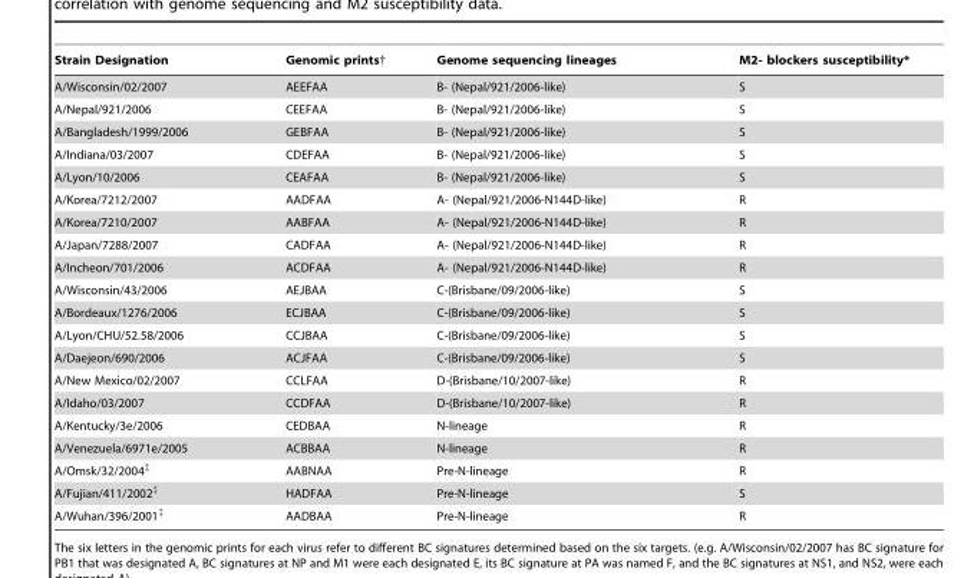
<table><thead><tr><td>Strain Designation</td><td>Genomic prints†</td><td>Genome sequencing lineages</td><td>M2- blockers susceptibility*</td></tr></thead><tbody><tr><td>A/Wisconsin/02/2007</td><td>AEEFAA</td><td>B- (Nepal/921/2006-like)</td><td>S</td></tr><tr><td>A/Nepal/921/2006</td><td>CEEFAA</td><td>B- (Nepal/921/2006-like)</td><td>S</td></tr><tr><td>A/Bangladesh/1999/2006</td><td>GEBFAA</td><td>B- (Nepal/921/2006-like)</td><td>S</td></tr><tr><td>A/Indiana/03/2007</td><td>CDEFAA</td><td>B- (Nepal/921/2006-like)</td><td>S</td></tr><tr><td>A/Lyon/10/2006</td><td>CEAFAA</td><td>B- (Nepal/921/2006-like)</td><td>S</td></tr><tr><td>A/Korea/7212/2007</td><td>AADFAA</td><td>A- (Nepal/921/2006-N144D-like)</td><td>R</td></tr><tr><td>A/Korea/7210/2007</td><td>AABFAA</td><td>A- (Nepal/921/2006-N144D-like)</td><td>R</td></tr><tr><td>A/Japan/7288/2007</td><td>CADFAA</td><td>A- (Nepal/921/2006-N144D-like)</td><td>R</td></tr><tr><td>A/Incheon/701/2006</td><td>ACDFAA</td><td>A- (Nepal/921/2006-N144D-like)</td><td>R</td></tr><tr><td>A/Wisconsin/43/2006</td><td>AEJBAA</td><td>C-(Brisbane/09/2006-like)</td><td>S</td></tr><tr><td>A/Bordeaux/1276/2006</td><td>ECJBAA</td><td>C-(Brisbane/09/2006-like)</td><td>S</td></tr><tr><td>A/Lyon/CHU/52.58/2006</td><td>CCJBAA</td><td>C-(Brisbane/09/2006-like)</td><td>S</td></tr><tr><td>A/Daejeon/690/2006</td><td>ACJFAA</td><td>C-(Brisbane/09/2006-like)</td><td>S</td></tr><tr><td>A/New Mexico/02/2007</td><td>CCLFAA</td><td>D-(Brisbane/10/2007-like)</td><td>R</td></tr><tr><td>A/Idaho/03/2007</td><td>CCDFAA</td><td>D-(Brisbane/10/2007-like)</td><td>R</td></tr><tr><td>A/Kentucky/3e/2006</td><td>CEDBAA</td><td>N-lineage</td><td>R</td></tr><tr><td>A/Venezuela/6971e/2005</td><td>ACBBAA</td><td>N-lineage</td><td>R</td></tr><tr><td>A/Omsk/32/2004‡</td><td>AABNAA</td><td>Pre-N-lineage</td><td>R</td></tr><tr><td>A/Fujian/411/2002‡</td><td>HADFAA</td><td>Pre-N-lineage</td><td>S</td></tr><tr><td>A/Wuhan/396/2001‡</td><td>AADBAA</td><td>Pre-N-lineage</td><td>R</td></tr></tbody></table>